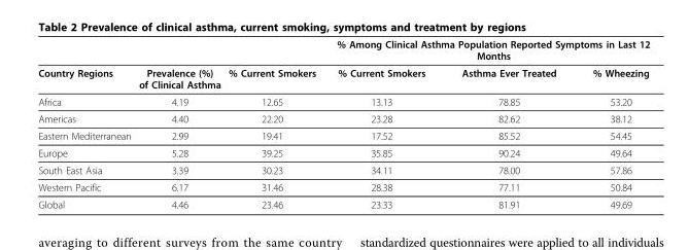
<table><thead><tr><td rowspan="2">Country Regions</td><td rowspan="2">Prevalence (%) of Clinical Asthma</td><td rowspan="2">% Current Smokers</td><td colspan="3">% Among Clinical Asthma Population Reported Symptoms in Last 12 Months</td></tr><tr><td>% Current Smokers</td><td>Asthma Ever Treated</td><td>% Wheezing</td></tr></thead><tbody><tr><td>Africa</td><td>4.19</td><td>12.65</td><td>13.13</td><td>78.85</td><td>53.20</td></tr><tr><td>Americas</td><td>4.40</td><td>22.20</td><td>23.28</td><td>82.62</td><td>38.12</td></tr><tr><td>Eastern Mediterranean</td><td>2.99</td><td>19.41</td><td>17.52</td><td>85.52</td><td>54.45</td></tr><tr><td>Europe</td><td>5.28</td><td>39.25</td><td>35.85</td><td>90.24</td><td>49.64</td></tr><tr><td>South East Asia</td><td>3.39</td><td>30.23</td><td>34.11</td><td>78.00</td><td>57.86</td></tr><tr><td>Western Pacific</td><td>6.17</td><td>31.46</td><td>28.38</td><td>77.11</td><td>50.84</td></tr><tr><td>Global</td><td>4.46</td><td>23.46</td><td>23.33</td><td>81.91</td><td>49.69</td></tr></tbody></table>